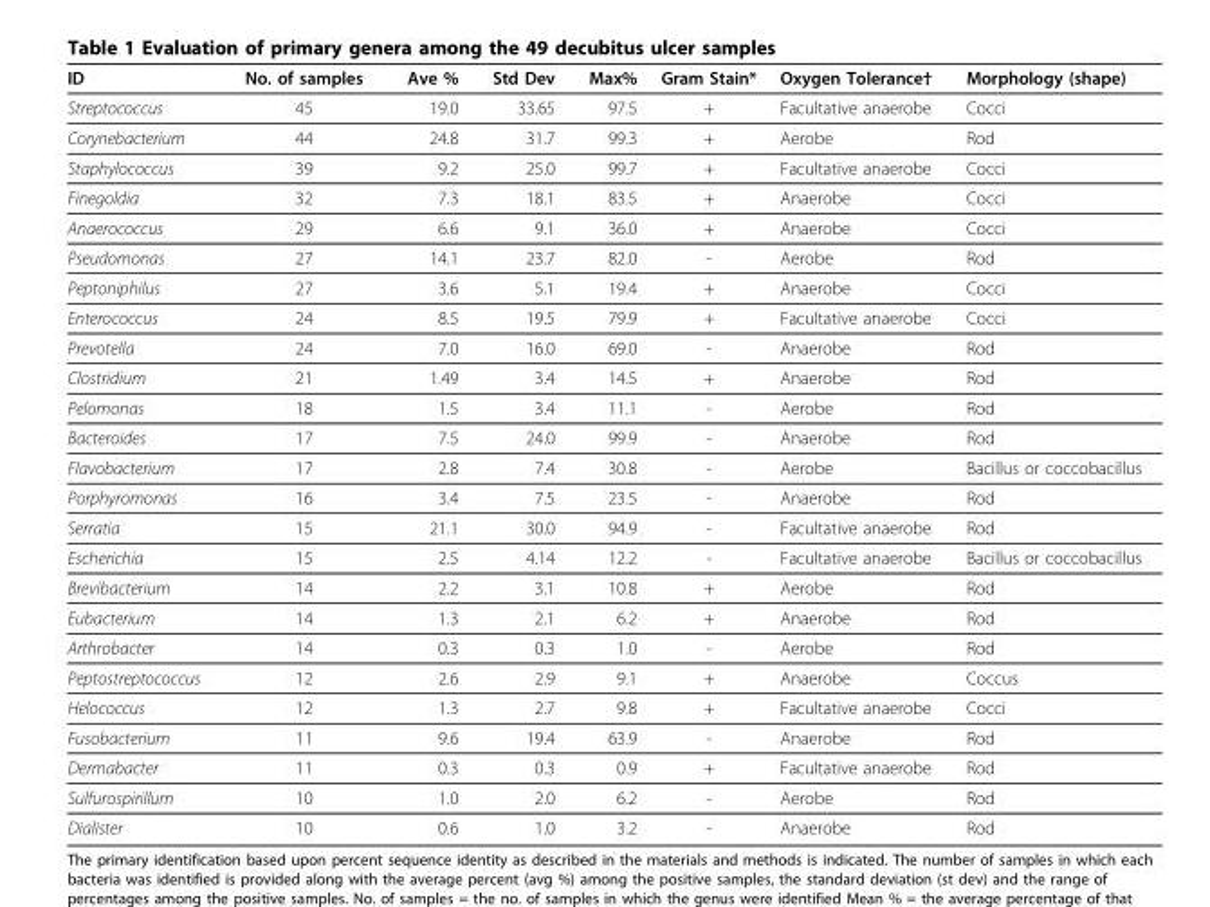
<table><thead><tr><td>ID</td><td>No. of samples</td><td>Ave %</td><td>Std Dev</td><td>Max%</td><td>Gram Stain*</td><td>Oxygen Tolerance†</td><td>Morphology (shape)</td></tr></thead><tbody><tr><td>Streptococcus</td><td>45</td><td>19.0</td><td>33.65</td><td>97.5</td><td>+</td><td>Facultative anaerobe</td><td>Cocci</td></tr><tr><td>Corynebacterium</td><td>44</td><td>24.8</td><td>31.7</td><td>99.3</td><td>+</td><td>Aerobe</td><td>Rod</td></tr><tr><td>Staphylococcus</td><td>39</td><td>9.2</td><td>25.0</td><td>99.7</td><td>+</td><td>Facultative anaerobe</td><td>Cocci</td></tr><tr><td>Finegoldia</td><td>32</td><td>7.3</td><td>18.1</td><td>83.5</td><td>+</td><td>Anaerobe</td><td>Cocci</td></tr><tr><td>Anaerococcus</td><td>29</td><td>6.6</td><td>9.1</td><td>36.0</td><td>+</td><td>Anaerobe</td><td>Cocci</td></tr><tr><td>Pseudomonas</td><td>27</td><td>14.1</td><td>23.7</td><td>82.0</td><td>-</td><td>Aerobe</td><td>Rod</td></tr><tr><td>Peptoniphilus</td><td>27</td><td>3.6</td><td>5.1</td><td>19.4</td><td>+</td><td>Anaerobe</td><td>Cocci</td></tr><tr><td>Enterococcus</td><td>24</td><td>8.5</td><td>19.5</td><td>79.9</td><td>+</td><td>Facultative anaerobe</td><td>Cocci</td></tr><tr><td>Prevotella</td><td>24</td><td>7.0</td><td>16.0</td><td>69.0</td><td>-</td><td>Anaerobe</td><td>Rod</td></tr><tr><td>Clostridium</td><td>21</td><td>1.49</td><td>3.4</td><td>14.5</td><td>+</td><td>Anaerobe</td><td>Rod</td></tr><tr><td>Pelomonas</td><td>18</td><td>1.5</td><td>3.4</td><td>11.1</td><td>-</td><td>Aerobe</td><td>Rod</td></tr><tr><td>Bacteroides</td><td>17</td><td>7.5</td><td>24.0</td><td>99.9</td><td>-</td><td>Anaerobe</td><td>Rod</td></tr><tr><td>Flavobacterium</td><td>17</td><td>2.8</td><td>7.4</td><td>30.8</td><td>-</td><td>Aerobe</td><td>Bacillus or coccobacillus</td></tr><tr><td>Porphyromonas</td><td>16</td><td>3.4</td><td>7.5</td><td>23.5</td><td>-</td><td>Anaerobe</td><td>Rod</td></tr><tr><td>Serratia</td><td>15</td><td>21.1</td><td>30.0</td><td>94.9</td><td>-</td><td>Facultative anaerobe</td><td>Rod</td></tr><tr><td>Escherichia</td><td>15</td><td>2.5</td><td>4.14</td><td>12.2</td><td>-</td><td>Facultative anaerobe</td><td>Bacillus or coccobacillus</td></tr><tr><td>Brevibacterium</td><td>14</td><td>2.2</td><td>3.1</td><td>10.8</td><td>+</td><td>Aerobe</td><td>Rod</td></tr><tr><td>Eubacterium</td><td>14</td><td>1.3</td><td>2.1</td><td>6.2</td><td>+</td><td>Anaerobe</td><td>Rod</td></tr><tr><td>Arthrobacter</td><td>14</td><td>0.3</td><td>0.3</td><td>1.0</td><td>-</td><td>Aerobe</td><td>Rod</td></tr><tr><td>Peptostreptococcus</td><td>12</td><td>2.6</td><td>2.9</td><td>9.1</td><td>+</td><td>Anaerobe</td><td>Coccus</td></tr><tr><td>Helococcus</td><td>12</td><td>1.3</td><td>2.7</td><td>9.8</td><td>+</td><td>Facultative anaerobe</td><td>Cocci</td></tr><tr><td>Fusobacterium</td><td>11</td><td>9.6</td><td>19.4</td><td>63.9</td><td>-</td><td>Anaerobe</td><td>Rod</td></tr><tr><td>Dermabacter</td><td>11</td><td>0.3</td><td>0.3</td><td>0.9</td><td>+</td><td>Facultative anaerobe</td><td>Rod</td></tr><tr><td>Sulfurospirillum</td><td>10</td><td>1.0</td><td>2.0</td><td>6.2</td><td>-</td><td>Aerobe</td><td>Rod</td></tr><tr><td>Dialister</td><td>10</td><td>0.6</td><td>1.0</td><td>3.2</td><td>-</td><td>Anaerobe</td><td>Rod</td></tr></tbody></table>